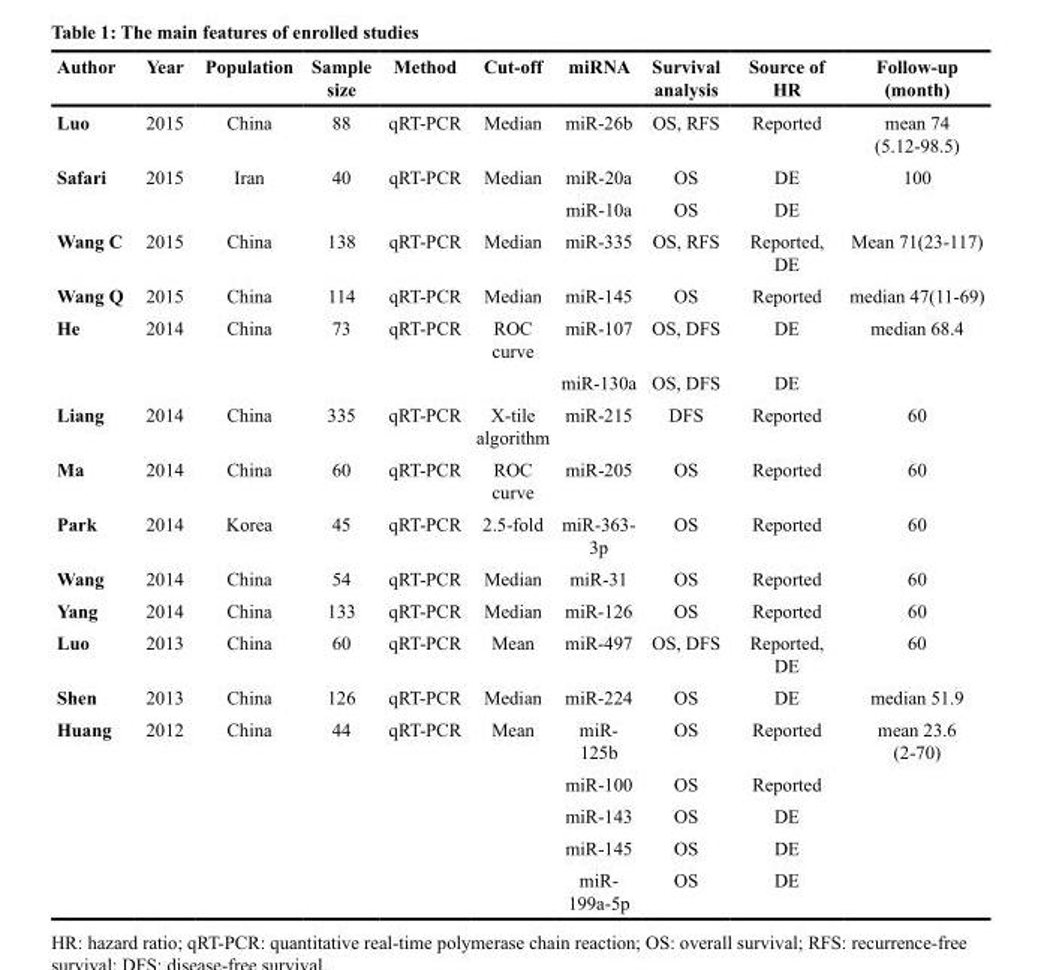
<table><thead><tr><td>Author</td><td>Year</td><td>Population</td><td>Sample size</td><td>Method</td><td>Cut-off</td><td>miRNA</td><td>Survival analysis</td><td>Source of HR</td><td>Follow-up (month)</td></tr></thead><tbody><tr><td>Luo</td><td>2015</td><td>China</td><td>88</td><td>qRT-PCR</td><td>Median</td><td>miR-26b</td><td>OS, RFS</td><td>Reported</td><td>mean 74 (5.12-98.5)</td></tr><tr><td rowspan="2">Safari</td><td>2015</td><td>Iran</td><td>40</td><td>qRT-PCR</td><td>Median</td><td>miR-20a</td><td>OS</td><td>DE</td><td>100</td></tr><tr><td></td><td></td><td></td><td></td><td></td><td>miR-10a</td><td>OS</td><td>DE</td><td></td></tr><tr><td>Wang C</td><td>2015</td><td>China</td><td>138</td><td>qRT-PCR</td><td>Median</td><td>miR-335</td><td>OS, RFS</td><td>Reported, DE</td><td>Mean 71(23-117)</td></tr><tr><td>Wang Q</td><td>2015</td><td>China</td><td>114</td><td>qRT-PCR</td><td>Median</td><td>miR-145</td><td>OS</td><td>Reported</td><td>median 47(11-69)</td></tr><tr><td rowspan="2">He</td><td>2014</td><td>China</td><td>73</td><td>qRT-PCR</td><td>ROC curve</td><td>miR-107</td><td>OS, DFS</td><td>DE</td><td>median 68.4</td></tr><tr><td></td><td></td><td></td><td></td><td></td><td>miR-130a</td><td>OS, DFS</td><td>DE</td><td></td></tr><tr><td>Liang</td><td>2014</td><td>China</td><td>335</td><td>qRT-PCR</td><td>X-tile algorithm</td><td>miR-215</td><td>DFS</td><td>Reported</td><td>60</td></tr><tr><td>Ma</td><td>2014</td><td>China</td><td>60</td><td>qRT-PCR</td><td>ROC curve</td><td>miR-205</td><td>OS</td><td>Reported</td><td>60</td></tr><tr><td>Park</td><td>2014</td><td>Korea</td><td>45</td><td>qRT-PCR</td><td>2.5-fold</td><td>miR-363- 3p</td><td>OS</td><td>Reported</td><td>60</td></tr><tr><td>Wang</td><td>2014</td><td>China</td><td>54</td><td>qRT-PCR</td><td>Median</td><td>miR-31</td><td>OS</td><td>Reported</td><td>60</td></tr><tr><td>Yang</td><td>2014</td><td>China</td><td>133</td><td>qRT-PCR</td><td>Median</td><td>miR-126</td><td>OS</td><td>Reported</td><td>60</td></tr><tr><td>Luo</td><td>2013</td><td>China</td><td>60</td><td>qRT-PCR</td><td>Mean</td><td>miR-497</td><td>OS, DFS</td><td>Reported, DE</td><td>60</td></tr><tr><td>Shen</td><td>2013</td><td>China</td><td>126</td><td>qRT-PCR</td><td>Median</td><td>miR-224</td><td>OS</td><td>DE</td><td>median 51.9</td></tr><tr><td rowspan="5">Huang</td><td>2012</td><td>China</td><td>44</td><td>qRT-PCR</td><td>Mean</td><td>miR- 125b</td><td>OS</td><td>Reported</td><td>mean 23.6 (2-70)</td></tr><tr><td></td><td></td><td></td><td></td><td></td><td>miR-100</td><td>OS</td><td>Reported</td><td></td></tr><tr><td></td><td></td><td></td><td></td><td></td><td>miR-143</td><td>OS</td><td>DE</td><td></td></tr><tr><td></td><td></td><td></td><td></td><td></td><td>miR-145</td><td>OS</td><td>DE</td><td></td></tr><tr><td></td><td></td><td></td><td></td><td></td><td>miR- 199a-5p</td><td>OS</td><td>DE</td><td></td></tr></tbody></table>